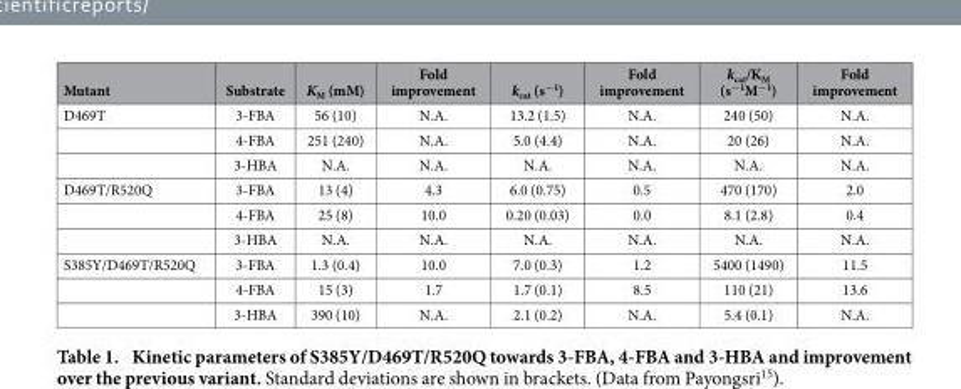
<table><thead><tr><td>Mutant</td><td>Substrate</td><td>K<sub>M</sub> (mM)</td><td>Fold improvement</td><td>k<sub>cat</sub> (s<sup>−1</sup>)</td><td>Fold improvement</td><td>k<sub>cat</sub>/K<sub>M</sub> (s<sup>−1</sup>M<sup>−1</sup>)</td><td>Fold improvement</td></tr></thead><tbody><tr><td rowspan="3">D469T</td><td>3-FBA</td><td>56 (10)</td><td>N.A.</td><td>13.2 (1.5)</td><td>N.A.</td><td>240 (50)</td><td>N.A.</td></tr><tr><td>4-FBA</td><td>251 (240)</td><td>N.A.</td><td>5.0 (4.4)</td><td>N.A.</td><td>20 (26)</td><td>N.A.</td></tr><tr><td>3-HBA</td><td>N.A.</td><td>N.A.</td><td>N.A.</td><td>N.A.</td><td>N.A.</td><td>N.A.</td></tr><tr><td rowspan="3">D469T/R520Q</td><td>3-FBA</td><td>13 (4)</td><td>4.3</td><td>6.0 (0.75)</td><td>0.5</td><td>470 (170)</td><td>2.0</td></tr><tr><td>4-FBA</td><td>25 (8)</td><td>10.0</td><td>0.20 (0.03)</td><td>0.0</td><td>8.1 (2.8)</td><td>0.4</td></tr><tr><td>3-HBA</td><td>N.A.</td><td>N.A.</td><td>N.A.</td><td>N.A.</td><td>N.A.</td><td>N.A.</td></tr><tr><td rowspan="3">S385Y/D469T/R520Q</td><td>3-FBA</td><td>1.3 (0.4)</td><td>10.0</td><td>7.0 (0.3)</td><td>1.2</td><td>5400 (1490)</td><td>11.5</td></tr><tr><td>4-FBA</td><td>15 (3)</td><td>1.7</td><td>1.7 (0.1)</td><td>8.5</td><td>110 (21)</td><td>13.6</td></tr><tr><td>3-HBA</td><td>390 (10)</td><td>N.A.</td><td>2.1 (0.2)</td><td>N.A.</td><td>5.4 (0.1)</td><td>N.A.</td></tr></tbody></table>